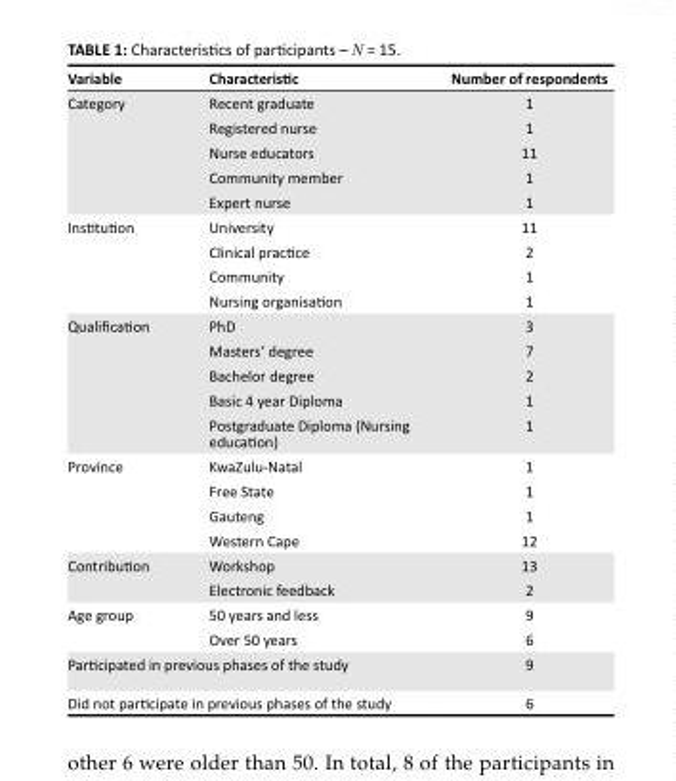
<table><thead><tr><td>Variable</td><td>Characteristic</td><td>Number of respondents</td></tr></thead><tbody><tr><td rowspan="5">Category</td><td>Recent graduate</td><td>1</td></tr><tr><td>Registered nurse</td><td>1</td></tr><tr><td>Nurse educators</td><td>11</td></tr><tr><td>Community member</td><td>1</td></tr><tr><td>Expert nurse</td><td>1</td></tr><tr><td rowspan="4">Institution</td><td>University</td><td>11</td></tr><tr><td>Clinical practice</td><td>2</td></tr><tr><td>Community</td><td>1</td></tr><tr><td>Nursing organisation</td><td>1</td></tr><tr><td rowspan="5">Qualification</td><td>PhD</td><td>3</td></tr><tr><td>Masters’ degree</td><td>7</td></tr><tr><td>Bachelor degree</td><td>2</td></tr><tr><td>Basic 4 year Diploma</td><td>1</td></tr><tr><td>Postgraduate Diploma (Nursing education)</td><td>1</td></tr><tr><td rowspan="4">Province</td><td>KwaZulu-Natal</td><td>1</td></tr><tr><td>Free State</td><td>1</td></tr><tr><td>Gauteng</td><td>1</td></tr><tr><td>Western Cape</td><td>12</td></tr><tr><td rowspan="2">Contribution</td><td>Workshop</td><td>13</td></tr><tr><td>Electronic feedback</td><td>2</td></tr><tr><td rowspan="2">Age group</td><td>50 years and less</td><td>9</td></tr><tr><td>Over 50 years</td><td>6</td></tr><tr><td colspan="2">Participated in previous phases of the study</td><td>9</td></tr><tr><td colspan="2">Did not participate in previous phases of the study</td><td>6</td></tr></tbody></table>